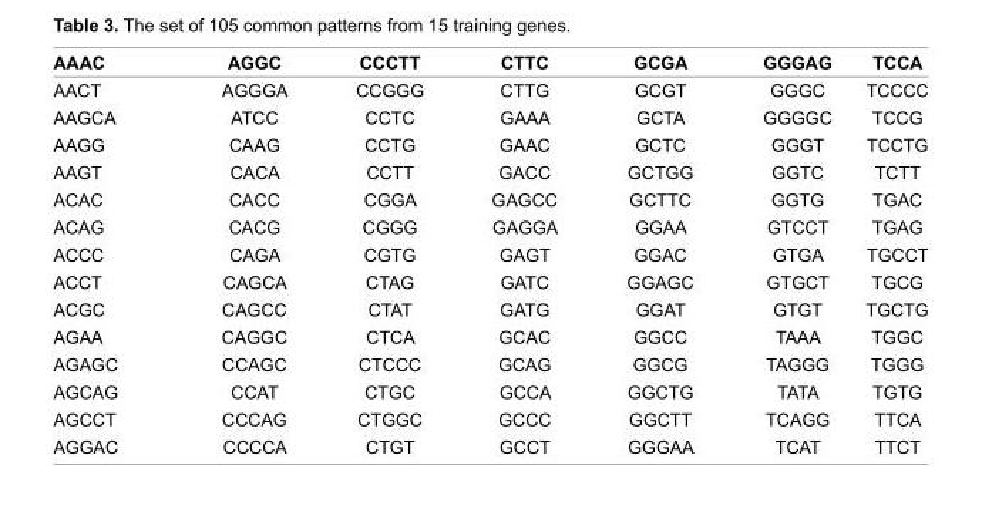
<table><thead><tr><td>AAAC</td><td>AGGC</td><td>CCCTT</td><td>CTTC</td><td>GCGA</td><td>GGGAG</td><td>TCCA</td></tr></thead><tbody><tr><td>AACT</td><td>AGGGA</td><td>CCGGG</td><td>CTTG</td><td>GCGT</td><td>GGGC</td><td>TCCCC</td></tr><tr><td>AAGCA</td><td>ATCC</td><td>CCTC</td><td>GAAA</td><td>GCTA</td><td>GGGGC</td><td>TCCG</td></tr><tr><td>AAGG</td><td>CAAG</td><td>CCTG</td><td>GAAC</td><td>GCTC</td><td>GGGT</td><td>TCCTG</td></tr><tr><td>AAGT</td><td>CACA</td><td>CCTT</td><td>GACC</td><td>GCTGG</td><td>GGTC</td><td>TCTT</td></tr><tr><td>ACAC</td><td>CACC</td><td>CGGA</td><td>GAGCC</td><td>GCTTC</td><td>GGTG</td><td>TGAC</td></tr><tr><td>ACAG</td><td>CACG</td><td>CGGG</td><td>GAGGA</td><td>GGAA</td><td>GTCCT</td><td>TGAG</td></tr><tr><td>ACCC</td><td>CAGA</td><td>CGTG</td><td>GAGT</td><td>GGAC</td><td>GTGA</td><td>TGCCT</td></tr><tr><td>ACCT</td><td>CAGCA</td><td>CTAG</td><td>GATC</td><td>GGAGC</td><td>GTGCT</td><td>TGCG</td></tr><tr><td>ACGC</td><td>CAGCC</td><td>CTAT</td><td>GATG</td><td>GGAT</td><td>GTGT</td><td>TGCTG</td></tr><tr><td>AGAA</td><td>CAGGC</td><td>CTCA</td><td>GCAC</td><td>GGCC</td><td>TAAA</td><td>TGGC</td></tr><tr><td>AGAGC</td><td>CCAGC</td><td>CTCCC</td><td>GCAG</td><td>GGCG</td><td>TAGGG</td><td>TGGG</td></tr><tr><td>AGCAG</td><td>CCAT</td><td>CTGC</td><td>GCCA</td><td>GGCTG</td><td>TATA</td><td>TGTG</td></tr><tr><td>AGCCT</td><td>CCCAG</td><td>CTGGC</td><td>GCCC</td><td>GGCTT</td><td>TCAGG</td><td>TTCA</td></tr><tr><td>AGGAC</td><td>CCCCA</td><td>CTGT</td><td>GCCT</td><td>GGGAA</td><td>TCAT</td><td>TTCT</td></tr></tbody></table>